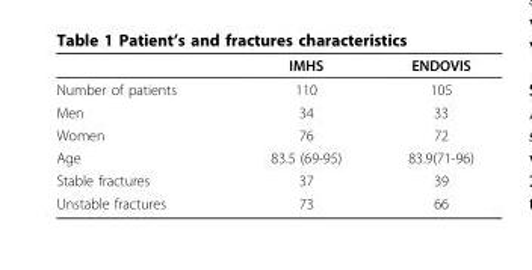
<table><thead><tr><td></td><td>IMHS</td><td>ENDOVIS</td></tr></thead><tbody><tr><td>Number of patients</td><td>110</td><td>105</td></tr><tr><td>Men</td><td>34</td><td>33</td></tr><tr><td>Women</td><td>76</td><td>72</td></tr><tr><td>Age</td><td>83.5 (69-95)</td><td>83.9(71-96)</td></tr><tr><td>Stable fractures</td><td>37</td><td>39</td></tr><tr><td>Unstable fractures</td><td>73</td><td>66</td></tr></tbody></table>